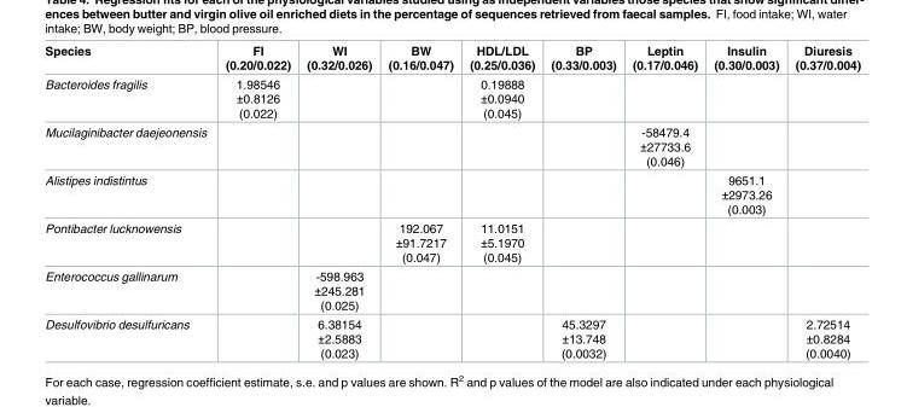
<table><thead><tr><td>Species</td><td>FI (0.20/0.022)</td><td>WI (0.32/0.026)</td><td>BW (0.16/0.047)</td><td>HDL/LDL (0.25/0.036)</td><td>BP (0.33/0.003)</td><td>Leptin (0.17/0.046)</td><td>Insulin (0.30/0.003)</td><td>Diuresis (0.37/0.004)</td></tr></thead><tbody><tr><td>Bacteroides fragilis</td><td>1.98546 ±0.8126 (0.022)</td><td></td><td></td><td>0.19888 ±0.0940 (0.045)</td><td></td><td></td><td></td><td></td></tr><tr><td>Mucilaginibacter daejeonensis</td><td></td><td></td><td></td><td></td><td></td><td>-58479.4 ±27733.6 (0.046)</td><td></td><td></td></tr><tr><td>Alistipes indistintus</td><td></td><td></td><td></td><td></td><td></td><td></td><td>9651.1 ±2973.26 (0.003)</td><td></td></tr><tr><td>Pontibacter lucknowensis</td><td></td><td></td><td>192.067 ±91.7217 (0.047)</td><td>11.0151 ±5.1970 (0.045)</td><td></td><td></td><td></td><td></td></tr><tr><td>Enterococcus gallinarum</td><td></td><td>-598.963 ±245.281 (0.025)</td><td></td><td></td><td></td><td></td><td></td><td></td></tr><tr><td>Desulfovibrio desulfuricans</td><td></td><td>6.38154 ±2.5883 (0.023)</td><td></td><td></td><td>45.3297 ±13.748 (0.0032)</td><td></td><td></td><td>2.72514 ±0.8284 (0.0040)</td></tr></tbody></table>